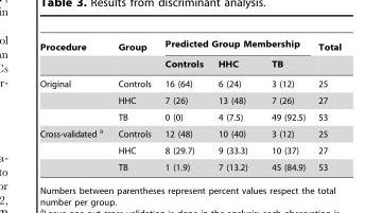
<table><thead><tr><td rowspan="2">Procedure</td><td rowspan="2">Group</td><td colspan="3">Predicted Group Membership</td><td rowspan="2">Total</td></tr><tr><td>Controls</td><td>HHC</td><td>TB</td></tr></thead><tbody><tr><td rowspan="3">Original</td><td>Controls</td><td>16 (64)</td><td>6 (24)</td><td>3 (12)</td><td>25</td></tr><tr><td>HHC</td><td>7 (26)</td><td>13 (48)</td><td>7 (26)</td><td>27</td></tr><tr><td>TB</td><td>0 (0)</td><td>4 (7.5)</td><td>49 (92.5)</td><td>53</td></tr><tr><td rowspan="3">Cross-validated a</td><td>Controls</td><td>12 (48)</td><td>10 (40)</td><td>3 (12)</td><td>25</td></tr><tr><td>HHC</td><td>8 (29.7)</td><td>9 (33.3)</td><td>10 (37)</td><td>27</td></tr><tr><td>TB</td><td>1 (1.9)</td><td>7 (13.2)</td><td>45 (84.9)</td><td>53</td></tr></tbody></table>